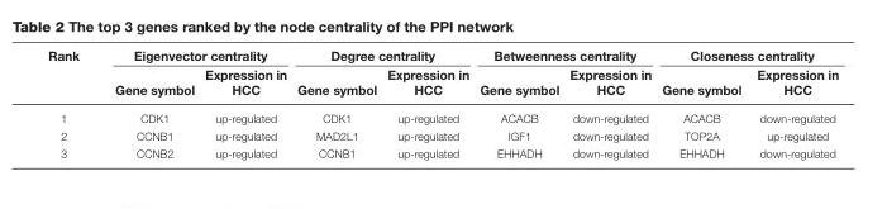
<table><thead><tr><td rowspan="2">Rank</td><td colspan="2">Eigenvector centrality</td><td colspan="2">Degree centrality</td><td colspan="2">Betweenness centrality</td><td colspan="2">Closeness centrality</td></tr><tr><td>Gene symbol</td><td>Expression in HCC</td><td>Gene symbol</td><td>Expression in HCC</td><td>Gene symbol</td><td>Expression in HCC</td><td>Gene symbol</td><td>Expression in HCC</td></tr></thead><tbody><tr><td>1</td><td>CDK1</td><td>up-regulated</td><td>CDK1</td><td>up-regulated</td><td>ACACB</td><td>down-regulated</td><td>ACACB</td><td>down-regulated</td></tr><tr><td>2</td><td>CCNB1</td><td>up-regulated</td><td>MAD2L1</td><td>up-regulated</td><td>IGF1</td><td>down-regulated</td><td>TOP2A</td><td>up-regulated</td></tr><tr><td>3</td><td>CCNB2</td><td>up-regulated</td><td>CCNB1</td><td>up-regulated</td><td>EHHADH</td><td>down-regulated</td><td>EHHADH</td><td>down-regulated</td></tr></tbody></table>